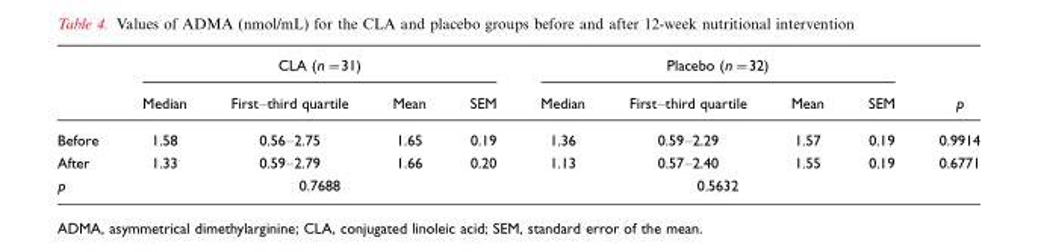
<table><thead><tr><td rowspan="2"></td><td colspan="4">CLA (n=31)</td><td colspan="4">Placebo (n=32)</td><td rowspan="2">p</td></tr><tr><td>Median</td><td>First–third quartile</td><td>Mean</td><td>SEM</td><td>Median</td><td>First–third quartile</td><td>Mean</td><td>SEM</td></tr></thead><tbody><tr><td>Before</td><td>1.58</td><td>0.56–2.75</td><td>1.65</td><td>0.19</td><td>1.36</td><td>0.59–2.29</td><td>1.57</td><td>0.19</td><td>0.9914</td></tr><tr><td>After</td><td>1.33</td><td>0.59–2.79</td><td>1.66</td><td>0.20</td><td>1.13</td><td>0.57–2.40</td><td>1.55</td><td>0.19</td><td>0.6771</td></tr><tr><td>p</td><td colspan="4">0.7688</td><td colspan="4">0.5632</td><td></td></tr></tbody></table>